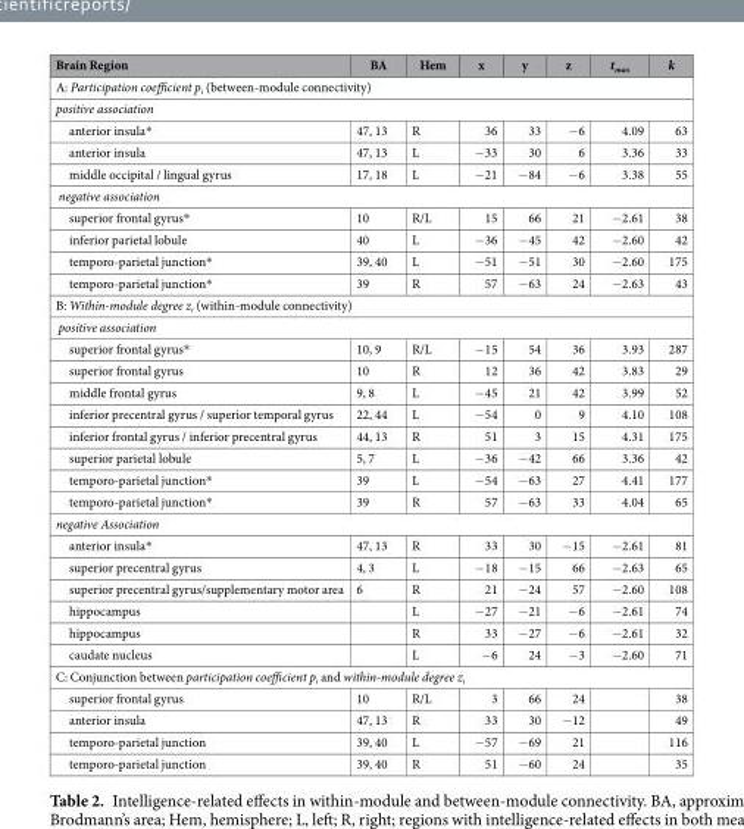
<table><thead><tr><td>Brain Region</td><td>BA</td><td>Hem</td><td>x</td><td>y</td><td>z</td><td>t<sub>max</sub></td><td>k</td></tr></thead><tbody><tr><td colspan="8">A: Participation coefficient p<sub>i</sub> (between-module connectivity)</td></tr><tr><td colspan="8">positive association</td></tr><tr><td>anterior insula*</td><td>47, 13</td><td>R</td><td>36</td><td>33</td><td>−6</td><td>4.09</td><td>63</td></tr><tr><td>anterior insula</td><td>47, 13</td><td>L</td><td>−33</td><td>30</td><td>6</td><td>3.36</td><td>33</td></tr><tr><td>middle occipital / lingual gyrus</td><td>17, 18</td><td>L</td><td>−21</td><td>−84</td><td>−6</td><td>3.38</td><td>55</td></tr><tr><td colspan="8">negative association</td></tr><tr><td>superior frontal gyrus*</td><td>10</td><td>R/L</td><td>15</td><td>66</td><td>21</td><td>−2.61</td><td>38</td></tr><tr><td>inferior parietal lobule</td><td>40</td><td>L</td><td>−36</td><td>−45</td><td>42</td><td>−2.60</td><td>42</td></tr><tr><td>temporo-parietal junction*</td><td>39, 40</td><td>L</td><td>−51</td><td>−51</td><td>30</td><td>−2.60</td><td>175</td></tr><tr><td>temporo-parietal junction*</td><td>39</td><td>R</td><td>57</td><td>−63</td><td>24</td><td>−2.63</td><td>43</td></tr><tr><td colspan="8">B: Within-module degree z<sub>i</sub> (within-module connectivity)</td></tr><tr><td colspan="8">positive association</td></tr><tr><td>superior frontal gyrus*</td><td>10, 9</td><td>R/L</td><td>−15</td><td>54</td><td>36</td><td>3.93</td><td>287</td></tr><tr><td>superior frontal gyrus</td><td>10</td><td>R</td><td>12</td><td>36</td><td>42</td><td>3.83</td><td>29</td></tr><tr><td>middle frontal gyrus</td><td>9, 8</td><td>L</td><td>−45</td><td>21</td><td>42</td><td>3.99</td><td>52</td></tr><tr><td>inferior precentral gyrus / superior temporal gyrus</td><td>22, 44</td><td>L</td><td>−54</td><td>0</td><td>9</td><td>4.10</td><td>108</td></tr><tr><td>inferior frontal gyrus / inferior precentral gyrus</td><td>44, 13</td><td>R</td><td>51</td><td>3</td><td>15</td><td>4.31</td><td>175</td></tr><tr><td>superior parietal lobule</td><td>5, 7</td><td>L</td><td>−36</td><td>−42</td><td>66</td><td>3.36</td><td>42</td></tr><tr><td>temporo-parietal junction*</td><td>39</td><td>L</td><td>−54</td><td>−63</td><td>27</td><td>4.41</td><td>177</td></tr><tr><td>temporo-parietal junction*</td><td>39</td><td>R</td><td>57</td><td>−63</td><td>33</td><td>4.04</td><td>65</td></tr><tr><td colspan="8">negative Association</td></tr><tr><td>anterior insula*</td><td>47, 13</td><td>R</td><td>33</td><td>30</td><td>−15</td><td>−2.61</td><td>81</td></tr><tr><td>superior precentral gyrus</td><td>4, 3</td><td>L</td><td>−18</td><td>−15</td><td>66</td><td>−2.63</td><td>65</td></tr><tr><td>superior precentral gyrus/supplementary motor area</td><td>6</td><td>R</td><td>21</td><td>−24</td><td>57</td><td>−2.60</td><td>108</td></tr><tr><td>hippocampus</td><td></td><td>L</td><td>−27</td><td>−21</td><td>−6</td><td>−2.61</td><td>74</td></tr><tr><td>hippocampus</td><td></td><td>R</td><td>33</td><td>−27</td><td>−6</td><td>−2.61</td><td>32</td></tr><tr><td>caudate nucleus</td><td></td><td>L</td><td>−6</td><td>24</td><td>−3</td><td>−2.60</td><td>71</td></tr><tr><td colspan="8">C: Conjunction between participation coefficient p<sub>i</sub> and within-module degree z<sub>i</sub></td></tr><tr><td>superior frontal gyrus</td><td>10</td><td>R/L</td><td>3</td><td>66</td><td>24</td><td></td><td>38</td></tr><tr><td>anterior insula</td><td>47, 13</td><td>R</td><td>33</td><td>30</td><td>−12</td><td></td><td>49</td></tr><tr><td>temporo-parietal junction</td><td>39, 40</td><td>L</td><td>−57</td><td>−69</td><td>21</td><td></td><td>116</td></tr><tr><td>temporo-parietal junction</td><td>39, 40</td><td>R</td><td>51</td><td>−60</td><td>24</td><td></td><td>35</td></tr></tbody></table>